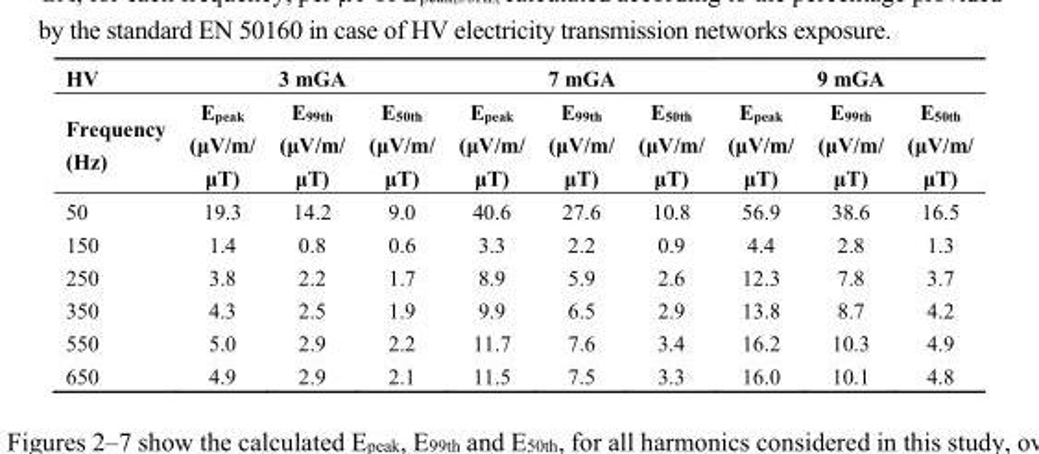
<table><thead><tr><td rowspan="2">HV Frequency (Hz)</td><td colspan="3">3 mGA</td><td colspan="3">7 mGA</td><td colspan="3">9 mGA</td></tr><tr><td>E<sub>peak</sub> (μV/m/ μT)</td><td>E<sub>99th</sub> (μV/m/ μT)</td><td>E<sub>50th</sub> (μV/m/ μT)</td><td>E<sub>peak</sub> (μV/m/ μT)</td><td>E<sub>99th</sub> (μV/m/ μT)</td><td>E<sub>50th</sub> (μV/m/ μT)</td><td>E<sub>peak</sub> (μV/m/ μT)</td><td>E<sub>99th</sub> (μV/m/ μT)</td><td>E<sub>50th</sub> (μV/m/ μT)</td></tr></thead><tbody><tr><td>50</td><td>19.3</td><td>14.2</td><td>9.0</td><td>40.6</td><td>27.6</td><td>10.8</td><td>56.9</td><td>38.6</td><td>16.5</td></tr><tr><td>150</td><td>1.4</td><td>0.8</td><td>0.6</td><td>3.3</td><td>2.2</td><td>0.9</td><td>4.4</td><td>2.8</td><td>1.3</td></tr><tr><td>250</td><td>3.8</td><td>2.2</td><td>1.7</td><td>8.9</td><td>5.9</td><td>2.6</td><td>12.3</td><td>7.8</td><td>3.7</td></tr><tr><td>350</td><td>4.3</td><td>2.5</td><td>1.9</td><td>9.9</td><td>6.5</td><td>2.9</td><td>13.8</td><td>8.7</td><td>4.2</td></tr><tr><td>550</td><td>5.0</td><td>2.9</td><td>2.2</td><td>11.7</td><td>7.6</td><td>3.4</td><td>16.2</td><td>10.3</td><td>4.9</td></tr><tr><td>650</td><td>4.9</td><td>2.9</td><td>2.1</td><td>11.5</td><td>7.5</td><td>3.3</td><td>16.0</td><td>10.1</td><td>4.8</td></tr></tbody></table>